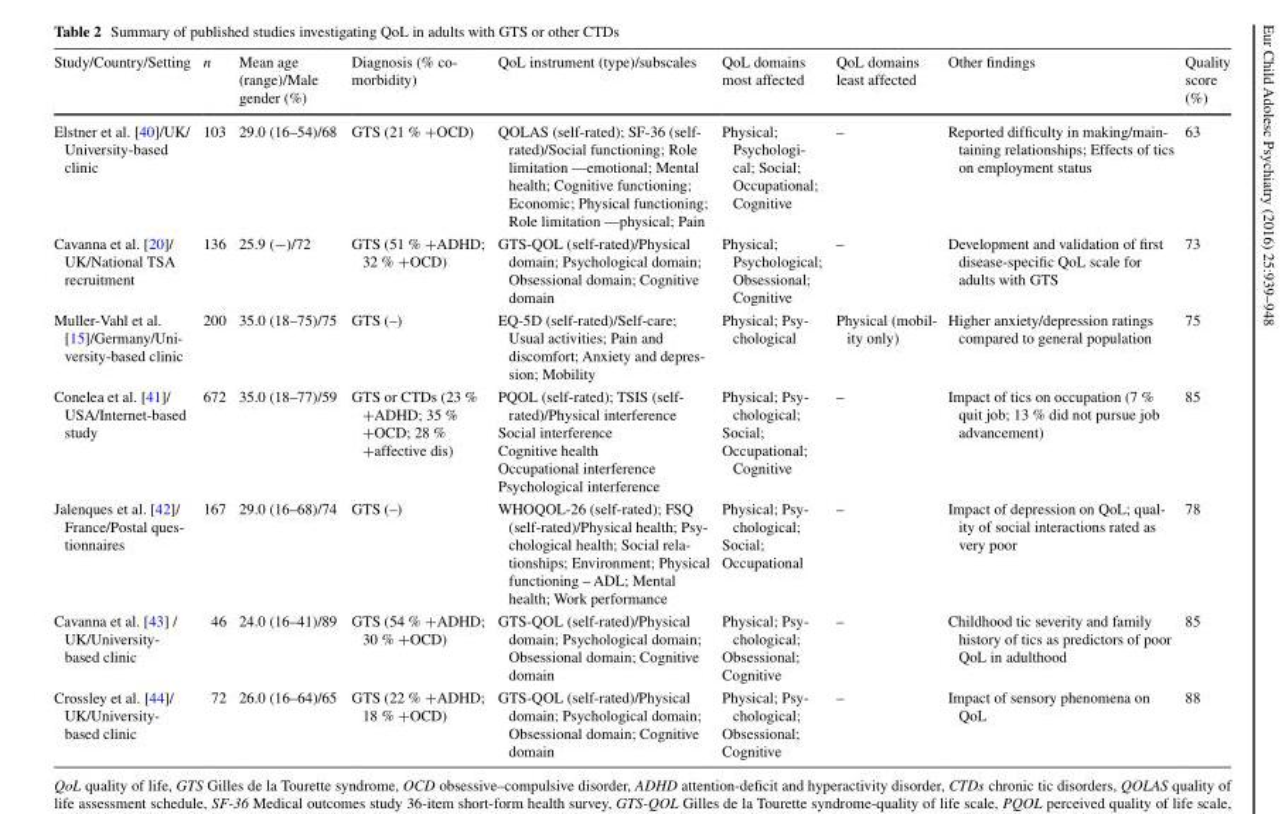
<table><thead><tr><td>Study/Country/Setting</td><td>n</td><td>Mean age (range)/Male gender (%)</td><td>Diagnosis (% co- morbidity)</td><td>QoL instrument (type)/subscales</td><td>QoL domains most affected</td><td>QoL domains least affected</td><td>Other findings</td><td>Quality score (%)</td></tr></thead><tbody><tr><td>Elstner et al. [40]/UK/ University-based clinic</td><td>103</td><td>29.0 (16–54)/68</td><td>GTS (21 % +OCD)</td><td>QOLAS (self-rated); SF-36 (self- rated)/Social functioning; Role limitation —emotional; Mental health; Cognitive functioning; Economic; Physical functioning; Role limitation —physical; Pain</td><td>Physical; Psychologi- cal; Social; Occupational; Cognitive</td><td>–</td><td>Reported difficulty in making/main- taining relationships; Effects of tics on employment status</td><td>63</td></tr><tr><td>Cavanna et al. [20]/ UK/National TSA recruitment</td><td>136</td><td>25.9 (−)/72</td><td>GTS (51 % +ADHD; 32 % +OCD)</td><td>GTS-QOL (self-rated)/Physical domain; Psychological domain; Obsessional domain; Cognitive domain</td><td>Physical; Psychological; Obsessional; Cognitive</td><td>–</td><td>Development and validation of first disease-specific QoL scale for adults with GTS</td><td>73</td></tr><tr><td>Muller-Vahl et al. [15]/Germany/Uni- versity-based clinic</td><td>200</td><td>35.0 (18–75)/75</td><td>GTS (–)</td><td>EQ-5D (self-rated)/Self-care; Usual activities; Pain and discomfort; Anxiety and depres- sion; Mobility</td><td>Physical; Psy- chological</td><td>Physical (mobil- ity only)</td><td>Higher anxiety/depression ratings compared to general population</td><td>75</td></tr><tr><td>Conelea et al. [41]/ USA/Internet-based study</td><td>672</td><td>35.0 (18–77)/59</td><td>GTS or CTDs (23 % +ADHD; 35 % +OCD; 28 % +affective dis)</td><td>PQOL (self-rated); TSIS (self- rated)/Physical interference Social interference Cognitive health Occupational interference Psychological interference</td><td>Physical; Psy- chological; Social; Occupational; Cognitive</td><td>–</td><td>Impact of tics on occupation (7 % quit job; 13 % did not pursue job advancement)</td><td>85</td></tr><tr><td>Jalenques et al. [42]/ France/Postal ques- tionnaires</td><td>167</td><td>29.0 (16–68)/74</td><td>GTS (–)</td><td>WHOQOL-26 (self-rated); FSQ (self-rated)/Physical health; Psy- chological health; Social rela- tionships; Environment; Physical functioning – ADL; Mental health; Work performance</td><td>Physical; Psy- chological; Social; Occupational</td><td>–</td><td>Impact of depression on QoL; qual- ity of social interactions rated as very poor</td><td>78</td></tr><tr><td>Cavanna et al. [43] / UK/University- based clinic</td><td>46</td><td>24.0 (16–41)/89</td><td>GTS (54 % +ADHD; 30 % +OCD)</td><td>GTS-QOL (self-rated)/Physical domain; Psychological domain; Obsessional domain; Cognitive domain</td><td>Physical; Psy- chological; Obsessional; Cognitive</td><td>–</td><td>Childhood tic severity and family history of tics as predictors of poor QoL in adulthood</td><td>85</td></tr><tr><td>Crossley et al. [44]/ UK/University- based clinic</td><td>72</td><td>26.0 (16–64)/65</td><td>GTS (22 % +ADHD; 18 % +OCD)</td><td>GTS-QOL (self-rated)/Physical domain; Psychological domain; Obsessional domain; Cognitive domain</td><td>Physical; Psy- chological; Obsessional; Cognitive</td><td>–</td><td>Impact of sensory phenomena on QoL</td><td>88</td></tr></tbody></table>